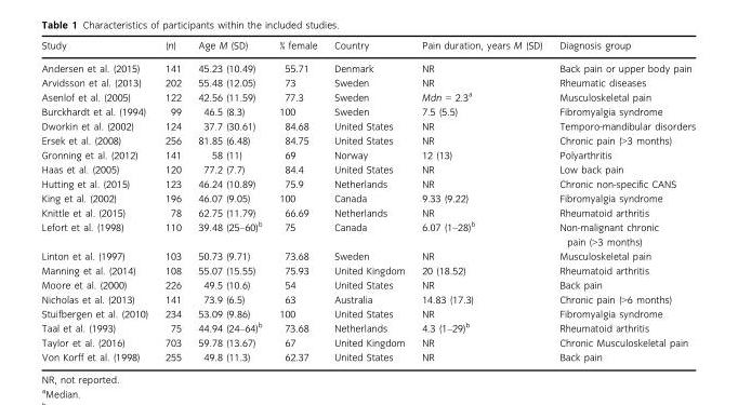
<table><thead><tr><td>Study</td><td>(n)</td><td>Age M (SD)</td><td>% female</td><td>Country</td><td>Pain duration, years M (SD)</td><td>Diagnosis group</td></tr></thead><tbody><tr><td>Andersen et al. (2015)</td><td>141</td><td>45.23 (10.49)</td><td>55.71</td><td>Denmark</td><td>NR</td><td>Back pain or upper body pain</td></tr><tr><td>Arvidsson et al. (2013)</td><td>202</td><td>55.48 (12.05)</td><td>73</td><td>Sweden</td><td>NR</td><td>Rheumatic diseases</td></tr><tr><td>Asenlof et al. (2005)</td><td>122</td><td>42.56 (11.59)</td><td>77.3</td><td>Sweden</td><td>Mdn = 2.3<sup>a</sup></td><td>Musculoskeletal pain</td></tr><tr><td>Burckhardt et al. (1994)</td><td>99</td><td>46.5 (8.3)</td><td>100</td><td>Sweden</td><td>7.5 (5.5)</td><td>Fibromyalgia syndrome</td></tr><tr><td>Dworkin et al. (2002)</td><td>124</td><td>37.7 (30.61)</td><td>84.68</td><td>United States</td><td>NR</td><td>Temporo-mandibular disorders</td></tr><tr><td>Ersek et al. (2008)</td><td>256</td><td>81.85 (6.48)</td><td>84.75</td><td>United States</td><td>NR</td><td>Chronic pain (&gt;3 months)</td></tr><tr><td>Gronning et al. (2012)</td><td>141</td><td>58 (11)</td><td>69</td><td>Norway</td><td>12 (13)</td><td>Polyarthritis</td></tr><tr><td>Haas et al. (2005)</td><td>120</td><td>77.2 (7.7)</td><td>84.4</td><td>United States</td><td>NR</td><td>Low back pain</td></tr><tr><td>Hutting et al. (2015)</td><td>123</td><td>46.24 (10.89)</td><td>75.9</td><td>Netherlands</td><td>NR</td><td>Chronic non-specific CANS</td></tr><tr><td>King et al. (2002)</td><td>196</td><td>46.07 (9.05)</td><td>100</td><td>Canada</td><td>9.33 (9.22)</td><td>Fibromyalgia syndrome</td></tr><tr><td>Knittle et al. (2015)</td><td>78</td><td>62.75 (11.79)</td><td>66.69</td><td>Netherlands</td><td>NR</td><td>Rheumatoid arthritis</td></tr><tr><td>Lefort et al. (1998)</td><td>110</td><td>39.48 (25–60)<sup>b</sup></td><td>75</td><td>Canada</td><td>6.07 (1–28)<sup>b</sup></td><td>Non-malignant chronic pain (&gt;3 months)</td></tr><tr><td>Linton et al. (1997)</td><td>103</td><td>50.73 (9.71)</td><td>73.68</td><td>Sweden</td><td>NR</td><td>Musculoskeletal pain</td></tr><tr><td>Manning et al. (2014)</td><td>108</td><td>55.07 (15.55)</td><td>75.93</td><td>United Kingdom</td><td>20 (18.52)</td><td>Rheumatoid arthritis</td></tr><tr><td>Moore et al. (2000)</td><td>226</td><td>49.5 (10.6)</td><td>54</td><td>United States</td><td>NR</td><td>Back pain</td></tr><tr><td>Nicholas et al. (2013)</td><td>141</td><td>73.9 (6.5)</td><td>63</td><td>Australia</td><td>14.83 (17.3)</td><td>Chronic pain (&gt;6 months)</td></tr><tr><td>Stuifbergen et al. (2010)</td><td>234</td><td>53.09 (9.86)</td><td>100</td><td>United States</td><td>NR</td><td>Fibromyalgia syndrome</td></tr><tr><td>Taal et al. (1993)</td><td>75</td><td>44.94 (24–64)<sup>b</sup></td><td>73.68</td><td>Netherlands</td><td>4.3 (1–29)<sup>b</sup></td><td>Rheumatoid arthritis</td></tr><tr><td>Taylor et al. (2016)</td><td>703</td><td>59.78 (13.67)</td><td>67</td><td>United Kingdom</td><td>NR</td><td>Chronic Musculoskeletal pain</td></tr><tr><td>Von Korff et al. (1998)</td><td>255</td><td>49.8 (11.3)</td><td>62.37</td><td>United States</td><td>NR</td><td>Back pain</td></tr></tbody></table>